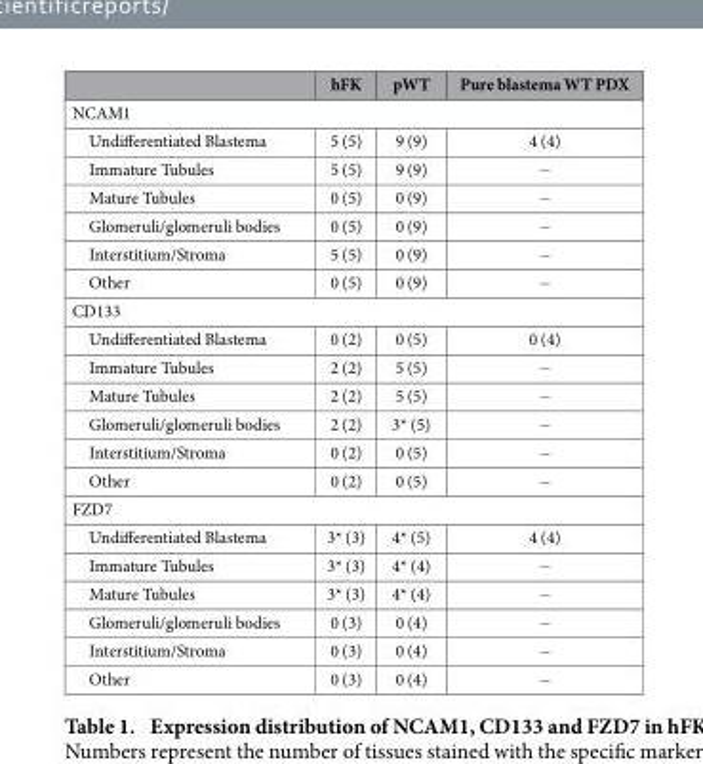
<table><thead><tr><td></td><td>hFK</td><td>pWT</td><td>Pure blastema WT PDX</td></tr></thead><tbody><tr><td colspan="4">NCAM1</td></tr><tr><td>Undifferentiated Blastema</td><td>5 (5)</td><td>9 (9)</td><td>4 (4)</td></tr><tr><td>Immature Tubules</td><td>5 (5)</td><td>9 (9)</td><td>−</td></tr><tr><td>Mature Tubules</td><td>0 (5)</td><td>0 (9)</td><td>−</td></tr><tr><td>Glomeruli/glomeruli bodies</td><td>0 (5)</td><td>0 (9)</td><td>−</td></tr><tr><td>Interstitium/Stroma</td><td>5 (5)</td><td>0 (9)</td><td>−</td></tr><tr><td>Other</td><td>0 (5)</td><td>0 (9)</td><td>−</td></tr><tr><td colspan="4">CD133</td></tr><tr><td>Undifferentiated Blastema</td><td>0 (2)</td><td>0 (5)</td><td>0 (4)</td></tr><tr><td>Immature Tubules</td><td>2 (2)</td><td>5 (5)</td><td>−</td></tr><tr><td>Mature Tubules</td><td>2 (2)</td><td>5 (5)</td><td>−</td></tr><tr><td>Glomeruli/glomeruli bodies</td><td>2 (2)</td><td>3* (5)</td><td>−</td></tr><tr><td>Interstitium/Stroma</td><td>0 (2)</td><td>0 (5)</td><td>−</td></tr><tr><td>Other</td><td>0 (2)</td><td>0 (5)</td><td>−</td></tr><tr><td colspan="4">FZD7</td></tr><tr><td>Undifferentiated Blastema</td><td>3* (3)</td><td>4* (5)</td><td>4 (4)</td></tr><tr><td>Immature Tubules</td><td>3* (3)</td><td>4* (4)</td><td>−</td></tr><tr><td>Mature Tubules</td><td>3* (3)</td><td>4* (4)</td><td>−</td></tr><tr><td>Glomeruli/glomeruli bodies</td><td>0 (3)</td><td>0 (4)</td><td>−</td></tr><tr><td>Interstitium/Stroma</td><td>0 (3)</td><td>0 (4)</td><td>−</td></tr><tr><td>Other</td><td>0 (3)</td><td>0 (4)</td><td>−</td></tr></tbody></table>